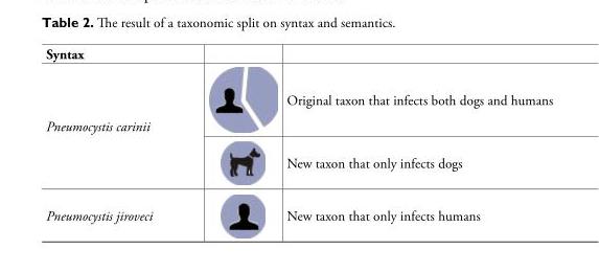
<table><thead><tr><td>Syntax</td><td></td></tr></thead><tbody><tr><td rowspan="2">Pneumocystis carinii</td><td>Original taxon that infects both dogs and humans</td></tr><tr><td>New taxon that only infects dogs</td></tr><tr><td>Pneumocystis jiroveci</td><td>New taxon that only infects humans</td></tr></tbody></table>